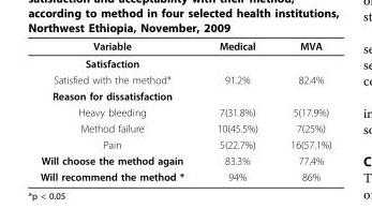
<table><thead><tr><td>Variable</td><td>Medical</td><td>MVA</td></tr></thead><tbody><tr><td colspan="3">Satisfaction</td></tr><tr><td>Satisfied with the method*</td><td>91.2%</td><td>82.4%</td></tr><tr><td colspan="3">Reason for dissatisfaction</td></tr><tr><td>Heavy bleeding</td><td>7(31.8%)</td><td>5(17.9%)</td></tr><tr><td>Method failure</td><td>10(45.5%)</td><td>7(25%)</td></tr><tr><td>Pain</td><td>5(22.7%)</td><td>16(57.1%)</td></tr><tr><td>Will choose the method again</td><td>83.3%</td><td>77.4%</td></tr><tr><td>Will recommend the method *</td><td>94%</td><td>86%</td></tr></tbody></table>